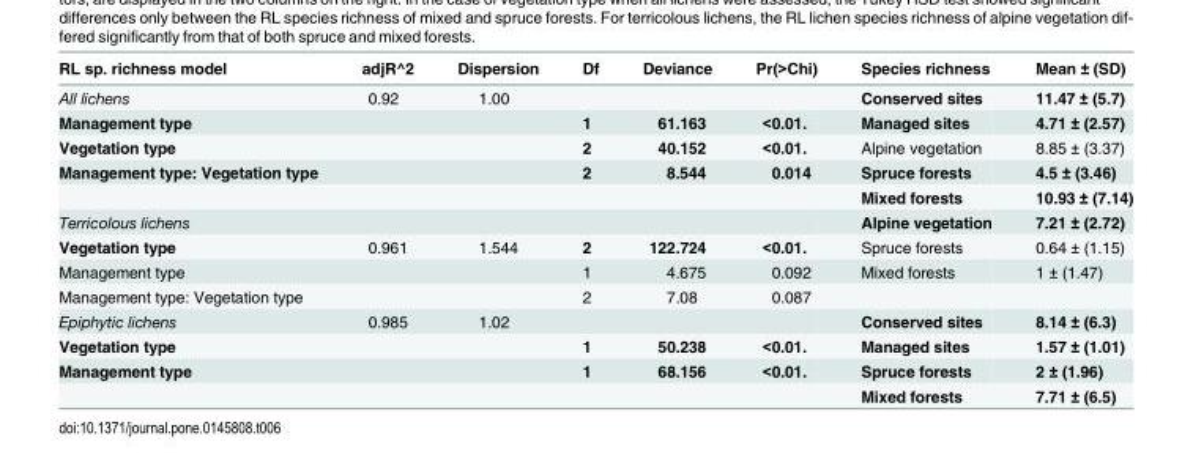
<table><thead><tr><td>RL sp. richness model</td><td>adjR^2</td><td>Dispersion</td><td>Df</td><td>Deviance</td><td>Pr(&gt;Chi)</td><td>Species richness</td><td>Mean ± (SD)</td></tr></thead><tbody><tr><td>All lichens</td><td>0.92</td><td>1.00</td><td></td><td></td><td></td><td>Conserved sites</td><td>11.47 ± (5.7)</td></tr><tr><td>Management type</td><td></td><td></td><td>1</td><td>61.163</td><td>&lt;0.01.</td><td>Managed sites</td><td>4.71 ± (2.57)</td></tr><tr><td>Vegetation type</td><td></td><td></td><td>2</td><td>40.152</td><td>&lt;0.01.</td><td>Alpine vegetation</td><td>8.85 ± (3.37)</td></tr><tr><td rowspan="2">Management type: Vegetation type</td><td></td><td></td><td>2</td><td>8.544</td><td>0.014</td><td>Spruce forests</td><td>4.5 ± (3.46)</td></tr><tr><td></td><td></td><td></td><td></td><td></td><td>Mixed forests</td><td>10.93 ± (7.14)</td></tr><tr><td>Terricolous lichens</td><td></td><td></td><td></td><td></td><td></td><td>Alpine vegetation</td><td>7.21 ± (2.72)</td></tr><tr><td>Vegetation type</td><td>0.961</td><td>1.544</td><td>2</td><td>122.724</td><td>&lt;0.01.</td><td>Spruce forests</td><td>0.64 ± (1.15)</td></tr><tr><td>Management type</td><td></td><td></td><td>1</td><td>4.675</td><td>0.092</td><td>Mixed forests</td><td>1 ± (1.47)</td></tr><tr><td>Management type: Vegetation type</td><td></td><td></td><td>2</td><td>7.08</td><td>0.087</td><td></td><td></td></tr><tr><td>Epiphytic lichens</td><td>0.985</td><td>1.02</td><td></td><td></td><td></td><td>Conserved sites</td><td>8.14 ± (6.3)</td></tr><tr><td>Vegetation type</td><td></td><td></td><td>1</td><td>50.238</td><td>&lt;0.01.</td><td>Managed sites</td><td>1.57 ± (1.01)</td></tr><tr><td rowspan="2">Management type</td><td></td><td></td><td>1</td><td>68.156</td><td>&lt;0.01.</td><td>Spruce forests</td><td>2 ± (1.96)</td></tr><tr><td></td><td></td><td></td><td></td><td></td><td>Mixed forests</td><td>7.71 ± (6.5)</td></tr></tbody></table>